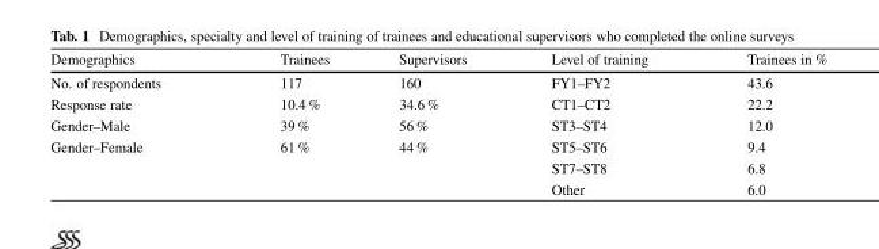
<table><thead><tr><td>Demographics</td><td>Trainees</td><td>Supervisors</td><td>Level of training</td><td>Trainees in %</td></tr></thead><tbody><tr><td>No. of respondents</td><td>117</td><td>160</td><td>FY1–FY2</td><td>43.6</td></tr><tr><td>Response rate</td><td>10.4 %</td><td>34.6 %</td><td>CT1–CT2</td><td>22.2</td></tr><tr><td>Gender–Male</td><td>39 %</td><td>56 %</td><td>ST3–ST4</td><td>12.0</td></tr><tr><td rowspan="3">Gender–Female</td><td>61 %</td><td>44 %</td><td>ST5–ST6</td><td>9.4</td></tr><tr><td></td><td></td><td>ST7–ST8</td><td>6.8</td></tr><tr><td></td><td></td><td>Other</td><td>6.0</td></tr></tbody></table>